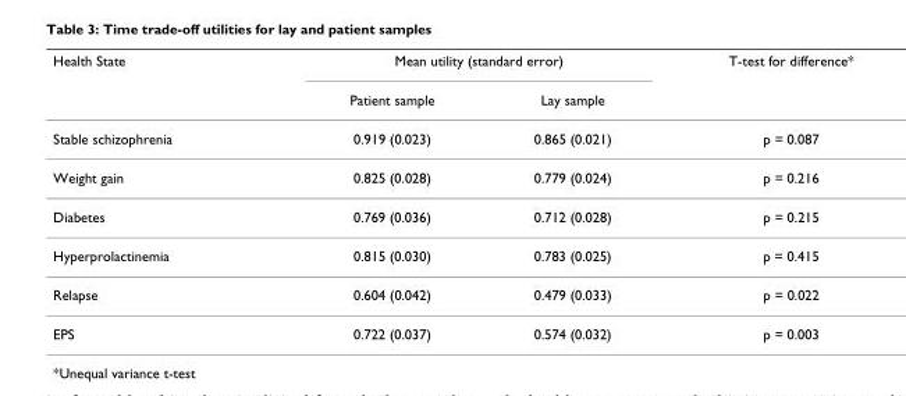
<table><thead><tr><td rowspan="2">Health State</td><td colspan="2">Mean utility (standard error)</td><td rowspan="2">T-test for difference*</td></tr><tr><td>Patient sample</td><td>Lay sample</td></tr></thead><tbody><tr><td>Stable schizophrenia</td><td>0.919 (0.023)</td><td>0.865 (0.021)</td><td>p = 0.087</td></tr><tr><td>Weight gain</td><td>0.825 (0.028)</td><td>0.779 (0.024)</td><td>p = 0.216</td></tr><tr><td>Diabetes</td><td>0.769 (0.036)</td><td>0.712 (0.028)</td><td>p = 0.215</td></tr><tr><td>Hyperprolactinemia</td><td>0.815 (0.030)</td><td>0.783 (0.025)</td><td>p = 0.415</td></tr><tr><td>Relapse</td><td>0.604 (0.042)</td><td>0.479 (0.033)</td><td>p = 0.022</td></tr><tr><td>EPS</td><td>0.722 (0.037)</td><td>0.574 (0.032)</td><td>p = 0.003</td></tr></tbody></table>